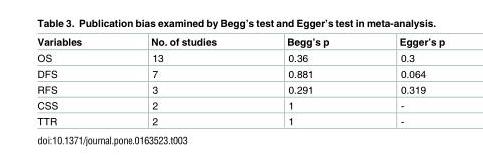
<table><thead><tr><td>Variables</td><td>No. of studies</td><td>Begg’s p</td><td>Egger’s p</td></tr></thead><tbody><tr><td>OS</td><td>13</td><td>0.36</td><td>0.3</td></tr><tr><td>DFS</td><td>7</td><td>0.881</td><td>0.064</td></tr><tr><td>RFS</td><td>3</td><td>0.291</td><td>0.319</td></tr><tr><td>CSS</td><td>2</td><td>1</td><td>-</td></tr><tr><td>TTR</td><td>2</td><td>1</td><td>-</td></tr></tbody></table>